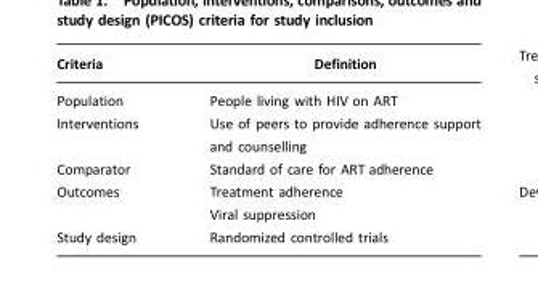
<table><thead><tr><td>Criteria</td><td>Definition</td></tr></thead><tbody><tr><td>Population</td><td>People living with HIV on ART</td></tr><tr><td>Interventions</td><td>Use of peers to provide adherence support and counselling</td></tr><tr><td>Comparator</td><td>Standard of care for ART adherence</td></tr><tr><td>Outcomes</td><td>Treatment adherence Viral suppression</td></tr><tr><td>Study design</td><td>Randomized controlled trials</td></tr></tbody></table>